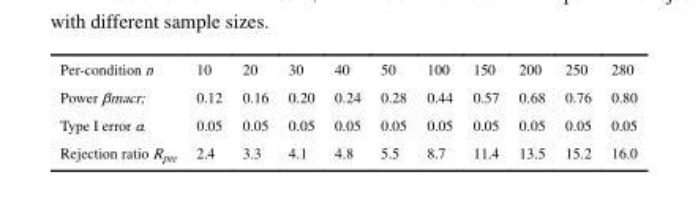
<table><tbody><tr><td>Per-condition n</td><td>10</td><td>20</td><td>30</td><td>40</td><td>50</td><td>100</td><td>150</td><td>200</td><td>250</td><td>280</td></tr><tr><td>Power βmacr;</td><td>0.12</td><td>0.16</td><td>0.20</td><td>0.24</td><td>0.28</td><td>0.44</td><td>0.57</td><td>0.68</td><td>0.76</td><td>0.80</td></tr><tr><td>Type I error α</td><td>0.05</td><td>0.05</td><td>0.05</td><td>0.05</td><td>0.05</td><td>0.05</td><td>0.05</td><td>0.05</td><td>0.05</td><td>0.05</td></tr><tr><td>Rejection ratio R<sub>pre</sub></td><td>2.4</td><td>3.3</td><td>4.1</td><td>4.8</td><td>5.5</td><td>8.7</td><td>11.4</td><td>13.5</td><td>15.2</td><td>16.0</td></tr></tbody></table>